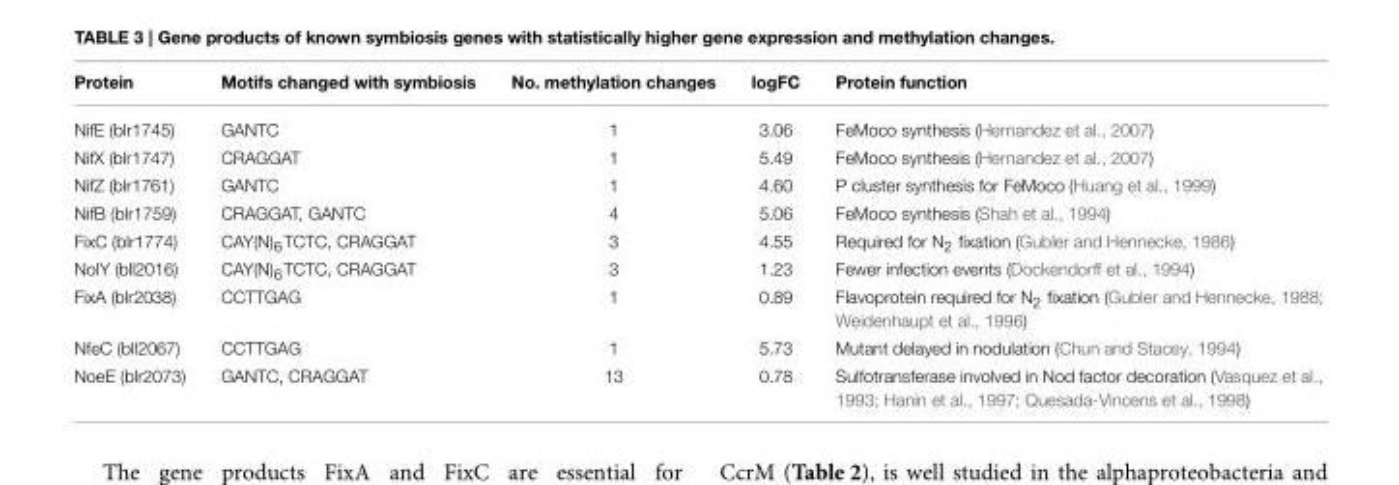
<table><thead><tr><td>Protein</td><td>Motifs changed with symbiosis</td><td>No. methylation changes</td><td>logFC</td><td>Protein function</td></tr></thead><tbody><tr><td>NifE (blr1745)</td><td>GANTC</td><td>1</td><td>3.06</td><td>FeMoco synthesis (Hernandez et al., 2007)</td></tr><tr><td>NifX (blr1747)</td><td>CRAGGAT</td><td>1</td><td>5.49</td><td>FeMoco synthesis (Hernandez et al., 2007)</td></tr><tr><td>NifZ (blr1761)</td><td>GANTC</td><td>1</td><td>4.60</td><td>P cluster synthesis for FeMoco (Huang et al., 1999)</td></tr><tr><td>NifB (blr1759)</td><td>CRAGGAT, GANTC</td><td>4</td><td>5.06</td><td>FeMoco synthesis (Shah et al., 1994)</td></tr><tr><td>FixC (blr1774)</td><td>CAY(N)<sub>6</sub>TCTC, CRAGGAT</td><td>3</td><td>4.55</td><td>Required for N<sub>2</sub> fixation (Gubler and Hennecke, 1986)</td></tr><tr><td>NolY (bll2016)</td><td>CAY(N)<sub>6</sub>TCTC, CRAGGAT</td><td>3</td><td>1.23</td><td>Fewer infection events (Dockendorff et al., 1994)</td></tr><tr><td>FixA (blr2038)</td><td>CCTTGAG</td><td>1</td><td>0.89</td><td>Flavoprotein required for N<sub>2</sub> fixation (Gubler and Hennecke, 1988; Weidenhaupt et al., 1996)</td></tr><tr><td>NfeC (bll2067)</td><td>CCTTGAG</td><td>1</td><td>5.73</td><td>Mutant delayed in nodulation (Chun and Stacey, 1994)</td></tr><tr><td>NoeE (blr2073)</td><td>GANTC, CRAGGAT</td><td>13</td><td>0.78</td><td>Sulfotransferase involved in Nod factor decoration (Vasquez et al., 1993; Hanin et al., 1997; Quesada-Vincens et al., 1998)</td></tr></tbody></table>